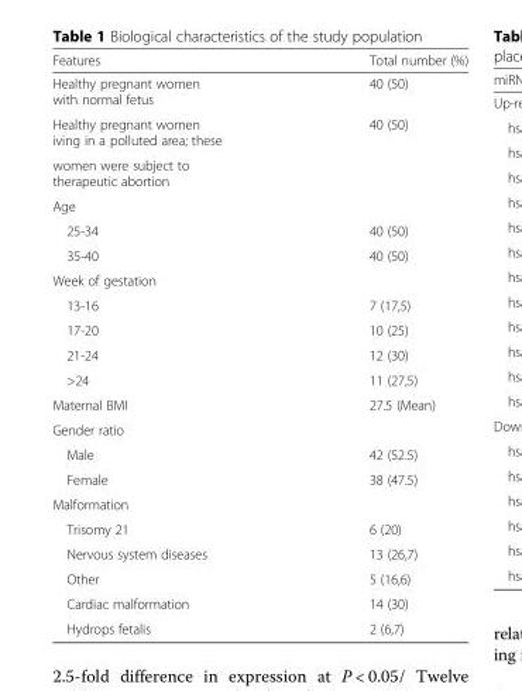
<table><thead><tr><td>Features</td><td>Total number (%)</td></tr></thead><tbody><tr><td>Healthy pregnant women with normal fetus</td><td>40 (50)</td></tr><tr><td>Healthy pregnant women iving in a polluted area; these</td><td>40 (50)</td></tr><tr><td colspan="2">women were subject to therapeutic abortion</td></tr><tr><td colspan="2">Age</td></tr><tr><td>25-34</td><td>40 (50)</td></tr><tr><td>35-40</td><td>40 (50)</td></tr><tr><td colspan="2">Week of gestation</td></tr><tr><td>13-16</td><td>7 (17,5)</td></tr><tr><td>17-20</td><td>10 (25)</td></tr><tr><td>21-24</td><td>12 (30)</td></tr><tr><td>&gt;24</td><td>11 (27,5)</td></tr><tr><td>Maternal BMI</td><td>27.5 (Mean)</td></tr><tr><td colspan="2">Gender ratio</td></tr><tr><td>Male</td><td>42 (52.5)</td></tr><tr><td>Female</td><td>38 (47.5)</td></tr><tr><td colspan="2">Malformation</td></tr><tr><td>Trisomy 21</td><td>6 (20)</td></tr><tr><td>Nervous system diseases</td><td>13 (26,7)</td></tr><tr><td>Other</td><td>5 (16,6)</td></tr><tr><td>Cardiac malformation</td><td>14 (30)</td></tr><tr><td>Hydrops fetalis</td><td>2 (6,7)</td></tr></tbody></table>